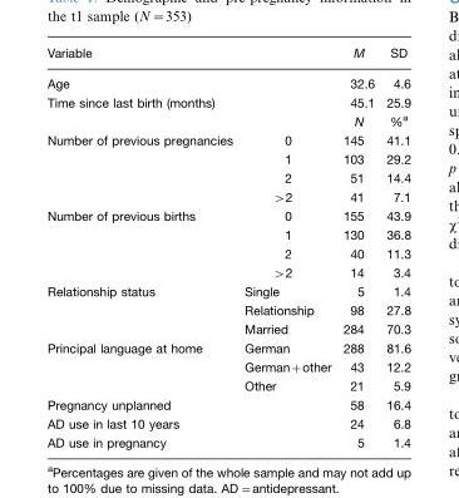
<table><thead><tr><td>Variable</td><td></td><td>M</td><td>SD</td></tr></thead><tbody><tr><td colspan="2">Age</td><td>32.6</td><td>4.6</td></tr><tr><td colspan="2">Time since last birth (months)</td><td>45.1</td><td>25.9</td></tr><tr><td></td><td></td><td>N</td><td>%<sup>a</sup></td></tr><tr><td rowspan="4">Number of previous pregnancies</td><td>0</td><td>145</td><td>41.1</td></tr><tr><td>1</td><td>103</td><td>29.2</td></tr><tr><td>2</td><td>51</td><td>14.4</td></tr><tr><td>&gt;2</td><td>41</td><td>7.1</td></tr><tr><td rowspan="4">Number of previous births</td><td>0</td><td>155</td><td>43.9</td></tr><tr><td>1</td><td>130</td><td>36.8</td></tr><tr><td>2</td><td>40</td><td>11.3</td></tr><tr><td>&gt;2</td><td>14</td><td>3.4</td></tr><tr><td rowspan="3">Relationship status</td><td>Single</td><td>5</td><td>1.4</td></tr><tr><td>Relationship</td><td>98</td><td>27.8</td></tr><tr><td>Married</td><td>284</td><td>70.3</td></tr><tr><td rowspan="3">Principal language at home</td><td>German</td><td>288</td><td>81.6</td></tr><tr><td>German+other</td><td>43</td><td>12.2</td></tr><tr><td>Other</td><td>21</td><td>5.9</td></tr><tr><td colspan="2">Pregnancy unplanned</td><td>58</td><td>16.4</td></tr><tr><td colspan="2">AD use in last 10 years</td><td>24</td><td>6.8</td></tr><tr><td colspan="2">AD use in pregnancy</td><td>5</td><td>1.4</td></tr></tbody></table>